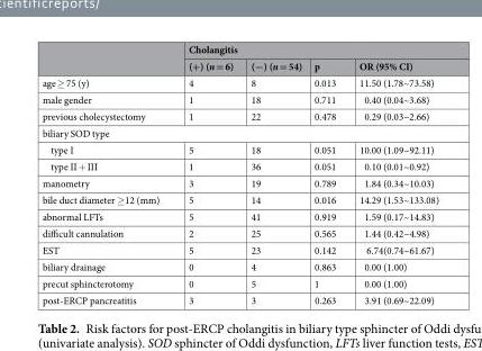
<table><thead><tr><td rowspan="2"></td><td colspan="4">Cholangitis</td></tr><tr><td>(+) (n = 6)</td><td>(−) (n = 54)</td><td>p</td><td>OR (95% CI)</td></tr></thead><tbody><tr><td>age ≥ 75 (y)</td><td>4</td><td>8</td><td>0.013</td><td>11.50 (1.78~73.58)</td></tr><tr><td>male gender</td><td>1</td><td>18</td><td>0.711</td><td>0.40 (0.04~3.68)</td></tr><tr><td>previous cholecystectomy</td><td>1</td><td>22</td><td>0.478</td><td>0.29 (0.03~2.66)</td></tr><tr><td colspan="5">biliary SOD type</td></tr><tr><td>type I</td><td>5</td><td>18</td><td>0.051</td><td>10.00 (1.09~92.11)</td></tr><tr><td>type II + III</td><td>1</td><td>36</td><td>0.051</td><td>0.10 (0.01~0.92)</td></tr><tr><td>manometry</td><td>3</td><td>19</td><td>0.789</td><td>1.84 (0.34~10.03)</td></tr><tr><td>bile duct diameter ≥12 (mm)</td><td>5</td><td>14</td><td>0.016</td><td>14.29 (1.53~133.08)</td></tr><tr><td>abnormal LFTs</td><td>5</td><td>41</td><td>0.919</td><td>1.59 (0.17~14.83)</td></tr><tr><td>difficult cannulation</td><td>2</td><td>25</td><td>0.565</td><td>1.44 (0.42~4.98)</td></tr><tr><td>EST</td><td>5</td><td>23</td><td>0.142</td><td>6.74(0.74~61.67)</td></tr><tr><td>biliary drainage</td><td>0</td><td>4</td><td>0.863</td><td>0.00 (1.00)</td></tr><tr><td>precut sphincterotomy</td><td>0</td><td>5</td><td>1</td><td>0.00 (1.00)</td></tr><tr><td>post-ERCP pancreatitis</td><td>3</td><td>3</td><td>0.263</td><td>3.91 (0.69~22.09)</td></tr></tbody></table>